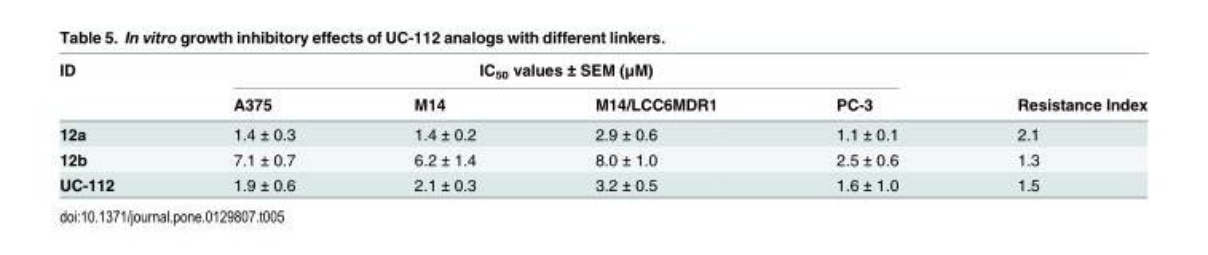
<table><thead><tr><td rowspan="2">ID</td><td colspan="4">IC<sub>50</sub> values ± SEM (μM)</td><td rowspan="2">Resistance Index</td></tr><tr><td>A375</td><td>M14</td><td>M14/LCC6MDR1</td><td>PC-3</td></tr></thead><tbody><tr><td>12a</td><td>1.4 ± 0.3</td><td>1.4 ± 0.2</td><td>2.9 ± 0.6</td><td>1.1 ± 0.1</td><td>2.1</td></tr><tr><td>12b</td><td>7.1 ± 0.7</td><td>6.2 ± 1.4</td><td>8.0 ± 1.0</td><td>2.5 ± 0.6</td><td>1.3</td></tr><tr><td>UC-112</td><td>1.9 ± 0.6</td><td>2.1 ± 0.3</td><td>3.2 ± 0.5</td><td>1.6 ± 1.0</td><td>1.5</td></tr></tbody></table>